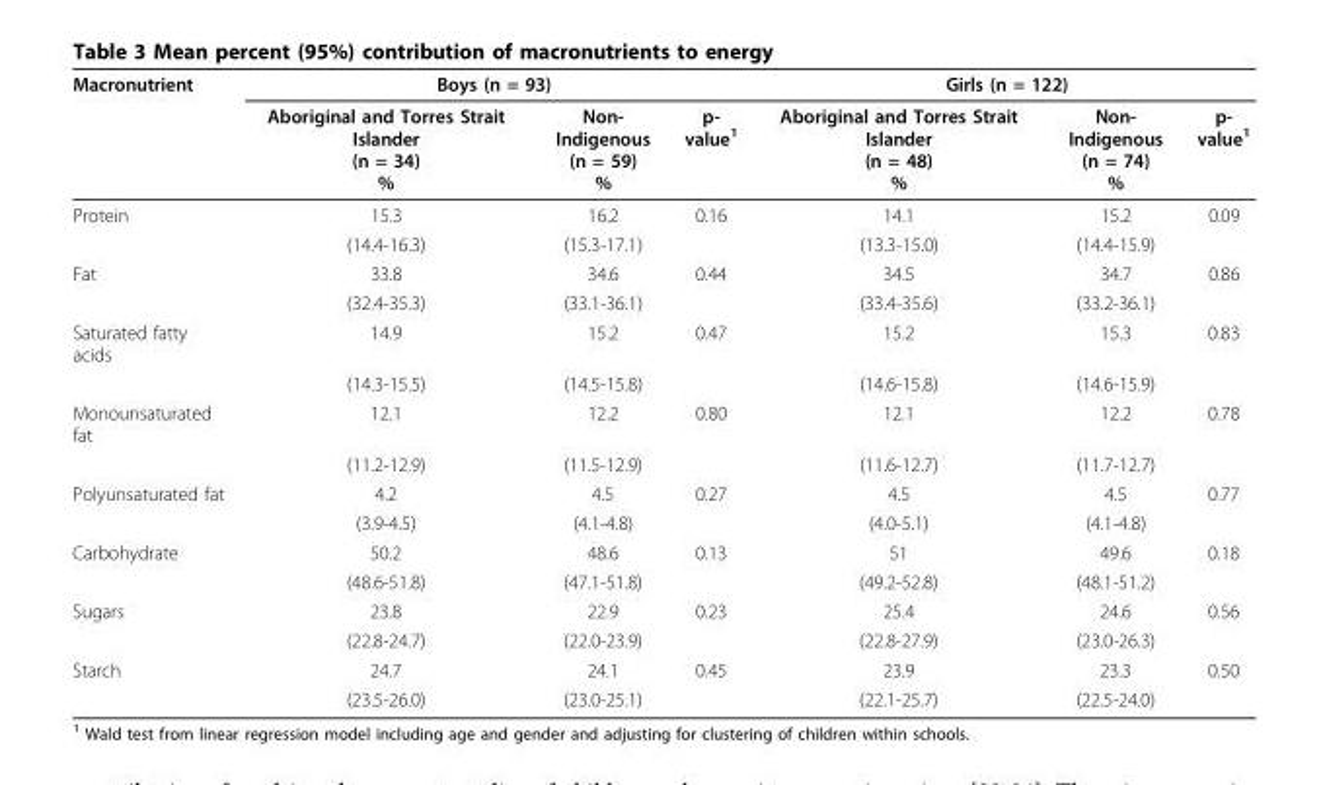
<table><thead><tr><td rowspan="2">Macronutrient</td><td colspan="3">Boys (n = 93)</td><td colspan="3">Girls (n = 122)</td></tr><tr><td>Aboriginal and Torres Strait Islander (n = 34) %</td><td>Non- Indigenous (n = 59) %</td><td>p- value<sup>1</sup></td><td>Aboriginal and Torres Strait Islander (n = 48) %</td><td>Non- Indigenous (n = 74) %</td><td>p- value<sup>1</sup></td></tr></thead><tbody><tr><td rowspan="2">Protein</td><td>15.3</td><td>16.2</td><td>0.16</td><td>14.1</td><td>15.2</td><td>0.09</td></tr><tr><td>(14.4-16.3)</td><td>(15.3-17.1)</td><td></td><td>(13.3-15.0)</td><td>(14.4-15.9)</td><td></td></tr><tr><td rowspan="2">Fat</td><td>33.8</td><td>34.6</td><td>0.44</td><td>34.5</td><td>34.7</td><td>0.86</td></tr><tr><td>(32.4-35.3)</td><td>(33.1-36.1)</td><td></td><td>(33.4-35.6)</td><td>(33.2-36.1)</td><td></td></tr><tr><td rowspan="2">Saturated fatty acids</td><td>14.9</td><td>15.2</td><td>0.47</td><td>15.2</td><td>15.3</td><td>0.83</td></tr><tr><td>(14.3-15.5)</td><td>(14.5-15.8)</td><td></td><td>(14.6-15.8)</td><td>(14.6-15.9)</td><td></td></tr><tr><td rowspan="2">Monounsaturated fat</td><td>12.1</td><td>12.2</td><td>0.80</td><td>12.1</td><td>12.2</td><td>0.78</td></tr><tr><td>(11.2-12.9)</td><td>(11.5-12.9)</td><td></td><td>(11.6-12.7)</td><td>(11.7-12.7)</td><td></td></tr><tr><td rowspan="2">Polyunsaturated fat</td><td>4.2</td><td>4.5</td><td>0.27</td><td>4.5</td><td>4.5</td><td>0.77</td></tr><tr><td>(3.9-4.5)</td><td>(4.1-4.8)</td><td></td><td>(4.0-5.1)</td><td>(4.1-4.8)</td><td></td></tr><tr><td rowspan="2">Carbohydrate</td><td>50.2</td><td>48.6</td><td>0.13</td><td>51</td><td>49.6</td><td>0.18</td></tr><tr><td>(48.6-51.8)</td><td>(47.1-51.8)</td><td></td><td>(49.2-52.8)</td><td>(48.1-51.2)</td><td></td></tr><tr><td rowspan="2">Sugars</td><td>23.8</td><td>22.9</td><td>0.23</td><td>25.4</td><td>24.6</td><td>0.56</td></tr><tr><td>(22.8-24.7)</td><td>(22.0-23.9)</td><td></td><td>(22.8-27.9)</td><td>(23.0-26.3)</td><td></td></tr><tr><td rowspan="2">Starch</td><td>24.7</td><td>24.1</td><td>0.45</td><td>23.9</td><td>23.3</td><td>0.50</td></tr><tr><td>(23.5-26.0)</td><td>(23.0-25.1)</td><td></td><td>(22.1-25.7)</td><td>(22.5-24.0)</td><td></td></tr></tbody></table>